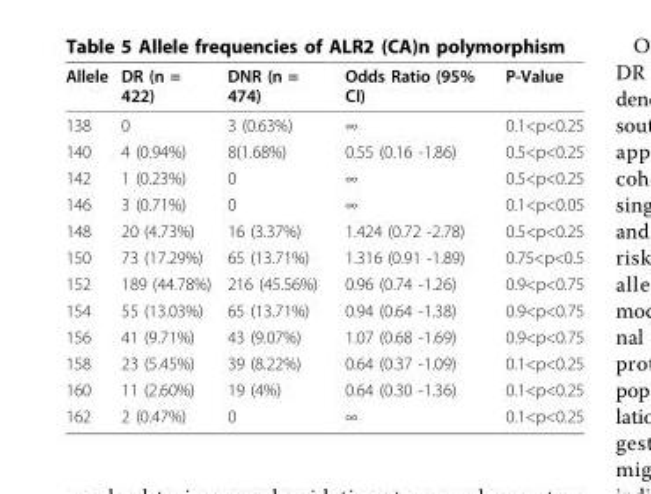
<table><thead><tr><td>Allele</td><td>DR (n = 422)</td><td>DNR (n = 474)</td><td>Odds Ratio (95% CI)</td><td>P-Value</td></tr></thead><tbody><tr><td>138</td><td>0</td><td>3 (0.63%)</td><td>∞</td><td>0.1&lt;p&lt;0.25</td></tr><tr><td>140</td><td>4 (0.94%)</td><td>8(1.68%)</td><td>0.55 (0.16 -1.86)</td><td>0.5&lt;p&lt;0.25</td></tr><tr><td>142</td><td>1 (0.23%)</td><td>0</td><td>∞</td><td>0.5&lt;p&lt;0.25</td></tr><tr><td>146</td><td>3 (0.71%)</td><td>0</td><td>∞</td><td>0.1&lt;p&lt;0.05</td></tr><tr><td>148</td><td>20 (4.73%)</td><td>16 (3.37%)</td><td>1.424 (0.72 -2.78)</td><td>0.5&lt;p&lt;0.25</td></tr><tr><td>150</td><td>73 (17.29%)</td><td>65 (13.71%)</td><td>1.316 (0.91 -1.89)</td><td>0.75&lt;p&lt;0.5</td></tr><tr><td>152</td><td>189 (44.78%)</td><td>216 (45.56%)</td><td>0.96 (0.74 -1.26)</td><td>0.9&lt;p&lt;0.75</td></tr><tr><td>154</td><td>55 (13.03%)</td><td>65 (13.71%)</td><td>0.94 (0.64 -1.38)</td><td>0.9&lt;p&lt;0.75</td></tr><tr><td>156</td><td>41 (9.71%)</td><td>43 (9.07%)</td><td>1.07 (0.68 -1.69)</td><td>0.9&lt;p&lt;0.75</td></tr><tr><td>158</td><td>23 (5.45%)</td><td>39 (8.22%)</td><td>0.64 (0.37 -1.09)</td><td>0.1&lt;p&lt;0.25</td></tr><tr><td>160</td><td>11 (2.60%)</td><td>19 (4%)</td><td>0.64 (0.30 -1.36)</td><td>0.1&lt;p&lt;0.25</td></tr><tr><td>162</td><td>2 (0.47%)</td><td>0</td><td>∞</td><td>0.1&lt;p&lt;0.25</td></tr></tbody></table>